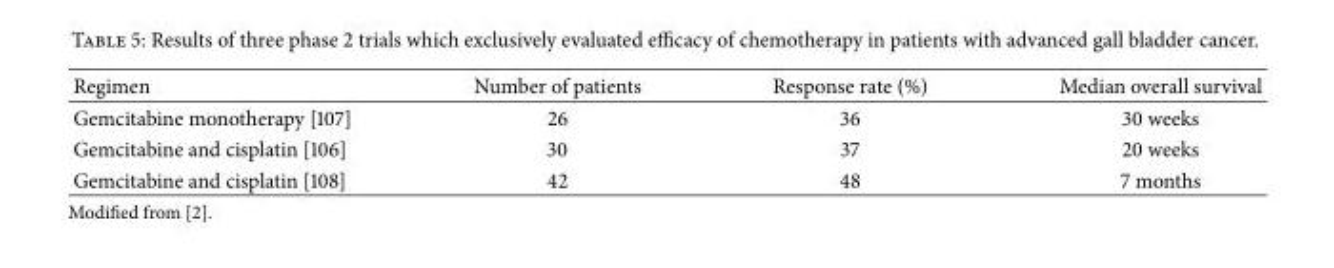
<table><thead><tr><td>Regimen</td><td>Number of patients</td><td>Response rate (%)</td><td>Median overall survival</td></tr></thead><tbody><tr><td>Gemcitabine monotherapy [107]</td><td>26</td><td>36</td><td>30 weeks</td></tr><tr><td>Gemcitabine and cisplatin [106]</td><td>30</td><td>37</td><td>20 weeks</td></tr><tr><td>Gemcitabine and cisplatin [108]</td><td>42</td><td>48</td><td>7 months</td></tr></tbody></table>